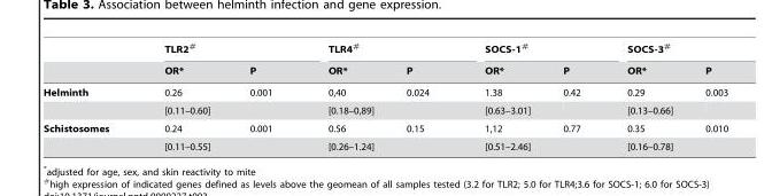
<table><thead><tr><td rowspan="2"></td><td colspan="2">TLR2#</td><td colspan="2">TLR4#</td><td colspan="2">SOCS-1#</td><td colspan="2">SOCS-3#</td></tr><tr><td>OR*</td><td>P</td><td>OR*</td><td>P</td><td>OR*</td><td>P</td><td>OR*</td><td>P</td></tr></thead><tbody><tr><td rowspan="2">Helminth</td><td>0.26</td><td>0.001</td><td>0,40</td><td>0.024</td><td>1.38</td><td>0.42</td><td>0.29</td><td>0.003</td></tr><tr><td>[0.11–0.60]</td><td></td><td>[0.18–0,89]</td><td></td><td>[0.63–3.01]</td><td></td><td>[0.13–0.66]</td><td></td></tr><tr><td rowspan="2">Schistosomes</td><td>0.24</td><td>0.001</td><td>0.56</td><td>0.15</td><td>1,12</td><td>0.77</td><td>0.35</td><td>0.010</td></tr><tr><td>[0.11–0.55]</td><td></td><td>[0.26–1.24]</td><td></td><td>[0.51–2.46]</td><td></td><td>[0.16–0.78]</td><td></td></tr></tbody></table>